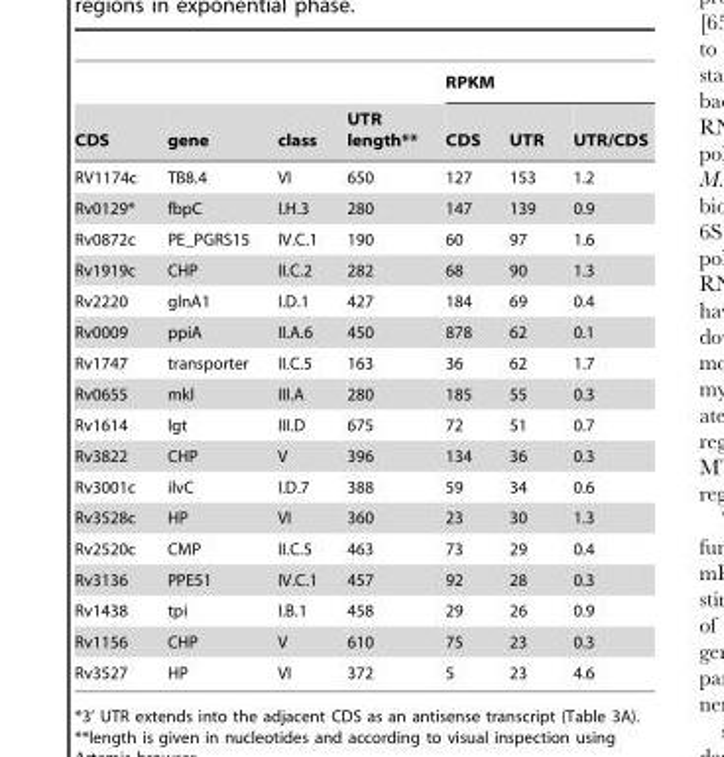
<table><thead><tr><td rowspan="2">CDS</td><td rowspan="2">gene</td><td rowspan="2">class</td><td rowspan="2">UTR length**</td><td colspan="3">RPKM</td></tr><tr><td>CDS</td><td>UTR</td><td>UTR/CDS</td></tr></thead><tbody><tr><td>RV1174c</td><td>TB8.4</td><td>VI</td><td>650</td><td>127</td><td>153</td><td>1.2</td></tr><tr><td>Rv0129*</td><td>fbpC</td><td>I.H.3</td><td>280</td><td>147</td><td>139</td><td>0.9</td></tr><tr><td>Rv0872c</td><td>PE_PGRS15</td><td>IV.C.1</td><td>190</td><td>60</td><td>97</td><td>1.6</td></tr><tr><td>Rv1919c</td><td>CHP</td><td>II.C.2</td><td>282</td><td>68</td><td>90</td><td>1.3</td></tr><tr><td>Rv2220</td><td>glnA1</td><td>I.D.1</td><td>427</td><td>184</td><td>69</td><td>0.4</td></tr><tr><td>Rv0009</td><td>ppiA</td><td>II.A.6</td><td>450</td><td>878</td><td>62</td><td>0.1</td></tr><tr><td>Rv1747</td><td>transporter</td><td>II.C.5</td><td>163</td><td>36</td><td>62</td><td>1.7</td></tr><tr><td>Rv0655</td><td>mkl</td><td>III.A</td><td>280</td><td>185</td><td>55</td><td>0.3</td></tr><tr><td>Rv1614</td><td>lgt</td><td>III.D</td><td>675</td><td>72</td><td>51</td><td>0.7</td></tr><tr><td>Rv3822</td><td>CHP</td><td>V</td><td>396</td><td>134</td><td>36</td><td>0.3</td></tr><tr><td>Rv3001c</td><td>ilvC</td><td>I.D.7</td><td>388</td><td>59</td><td>34</td><td>0.6</td></tr><tr><td>Rv3528c</td><td>HP</td><td>VI</td><td>360</td><td>23</td><td>30</td><td>1.3</td></tr><tr><td>Rv2520c</td><td>CMP</td><td>II.C.5</td><td>463</td><td>73</td><td>29</td><td>0.4</td></tr><tr><td>Rv3136</td><td>PPE51</td><td>IV.C.1</td><td>457</td><td>92</td><td>28</td><td>0.3</td></tr><tr><td>Rv1438</td><td>tpi</td><td>I.B.1</td><td>458</td><td>29</td><td>26</td><td>0.9</td></tr><tr><td>Rv1156</td><td>CHP</td><td>V</td><td>610</td><td>75</td><td>23</td><td>0.3</td></tr><tr><td>Rv3527</td><td>HP</td><td>VI</td><td>372</td><td>5</td><td>23</td><td>4.6</td></tr></tbody></table>